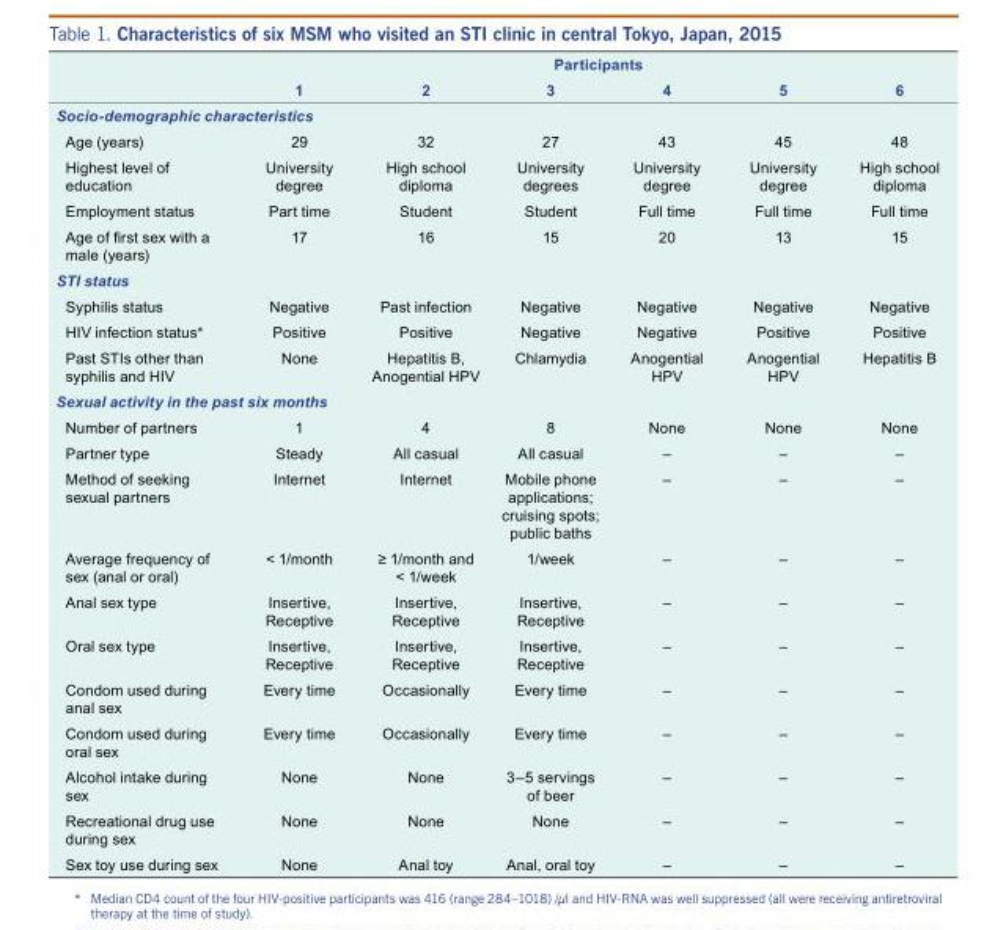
<table><thead><tr><td rowspan="2"></td><td colspan="6">Participants</td></tr><tr><td>1</td><td>2</td><td>3</td><td>4</td><td>5</td><td>6</td></tr></thead><tbody><tr><td colspan="7">Socio-demographic characteristics</td></tr><tr><td>Age (years)</td><td>29</td><td>32</td><td>27</td><td>43</td><td>45</td><td>48</td></tr><tr><td>Highest level of education</td><td>University degree</td><td>High school diploma</td><td>University degrees</td><td>University degree</td><td>University degree</td><td>High school diploma</td></tr><tr><td>Employment status</td><td>Part time</td><td>Student</td><td>Student</td><td>Full time</td><td>Full time</td><td>Full time</td></tr><tr><td>Age of first sex with a male (years)</td><td>17</td><td>16</td><td>15</td><td>20</td><td>13</td><td>15</td></tr><tr><td colspan="7">STI status</td></tr><tr><td>Syphilis status</td><td>Negative</td><td>Past infection</td><td>Negative</td><td>Negative</td><td>Negative</td><td>Negative</td></tr><tr><td>HIV infection status*</td><td>Positive</td><td>Positive</td><td>Negative</td><td>Negative</td><td>Positive</td><td>Positive</td></tr><tr><td>Past STIs other than syphilis and HIV</td><td>None</td><td>Hepatitis B, Anogential HPV</td><td>Chlamydia</td><td>Anogential HPV</td><td>Anogential HPV</td><td>Hepatitis B</td></tr><tr><td colspan="7">Sexual activity in the past six months</td></tr><tr><td>Number of partners</td><td>1</td><td>4</td><td>8</td><td>None</td><td>None</td><td>None</td></tr><tr><td>Partner type</td><td>Steady</td><td>All casual</td><td>All casual</td><td>–</td><td>–</td><td>–</td></tr><tr><td>Method of seeking sexual partners</td><td>Internet</td><td>Internet</td><td>Mobile phone applications; cruising spots; public baths</td><td>–</td><td>–</td><td>–</td></tr><tr><td>Average frequency of sex (anal or oral)</td><td>&lt; 1/month</td><td>≥ 1/month and &lt; 1/week</td><td>1/week</td><td>–</td><td>–</td><td>–</td></tr><tr><td>Anal sex type</td><td>Insertive, Receptive</td><td>Insertive, Receptive</td><td>Insertive, Receptive</td><td>–</td><td>–</td><td>–</td></tr><tr><td>Oral sex type</td><td>Insertive, Receptive</td><td>Insertive, Receptive</td><td>Insertive, Receptive</td><td>–</td><td>–</td><td>–</td></tr><tr><td>Condom used during anal sex</td><td>Every time</td><td>Occasionally</td><td>Every time</td><td>–</td><td>–</td><td>–</td></tr><tr><td>Condom used during oral sex</td><td>Every time</td><td>Occasionally</td><td>Every time</td><td>–</td><td>–</td><td>–</td></tr><tr><td>Alcohol intake during sex</td><td>None</td><td>None</td><td>3–5 servings of beer</td><td>–</td><td>–</td><td>–</td></tr><tr><td>Recreational drug use during sex</td><td>None</td><td>None</td><td>None</td><td>–</td><td>–</td><td>–</td></tr><tr><td>Sex toy use during sex</td><td>None</td><td>Anal toy</td><td>Anal, oral toy</td><td>–</td><td>–</td><td>–</td></tr></tbody></table>